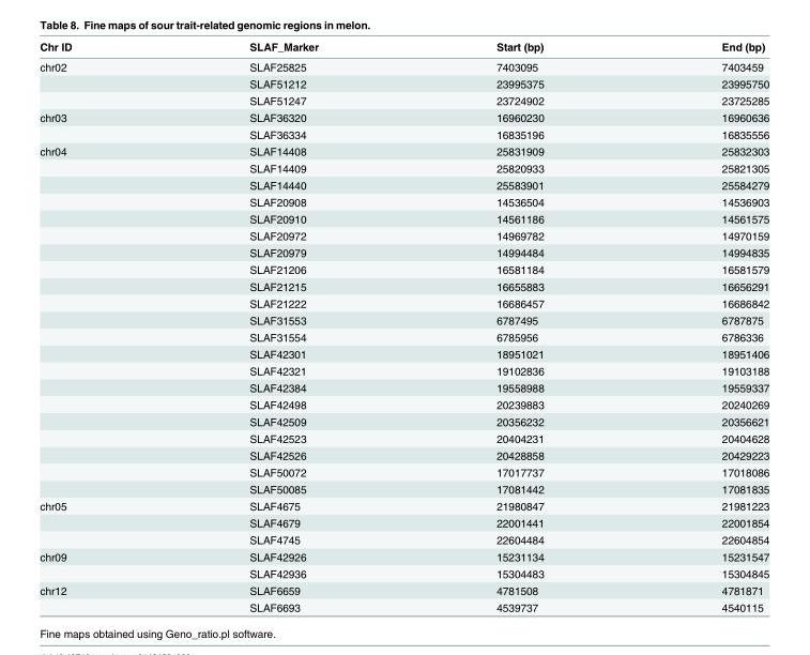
<table><thead><tr><td>Chr ID</td><td>SLAF_Marker</td><td>Start (bp)</td><td>End (bp)</td></tr></thead><tbody><tr><td rowspan="3">chr02</td><td>SLAF25825</td><td>7403095</td><td>7403459</td></tr><tr><td>SLAF51212</td><td>23995375</td><td>23995750</td></tr><tr><td>SLAF51247</td><td>23724902</td><td>23725285</td></tr><tr><td rowspan="2">chr03</td><td>SLAF36320</td><td>16960230</td><td>16960636</td></tr><tr><td>SLAF36334</td><td>16835196</td><td>16835556</td></tr><tr><td rowspan="21">chr04</td><td>SLAF14408</td><td>25831909</td><td>25832303</td></tr><tr><td>SLAF14409</td><td>25820933</td><td>25821305</td></tr><tr><td>SLAF14440</td><td>25583901</td><td>25584279</td></tr><tr><td>SLAF20908</td><td>14536504</td><td>14536903</td></tr><tr><td>SLAF20910</td><td>14561186</td><td>14561575</td></tr><tr><td>SLAF20972</td><td>14969782</td><td>14970159</td></tr><tr><td>SLAF20979</td><td>14994484</td><td>14994835</td></tr><tr><td>SLAF21206</td><td>16581184</td><td>16581579</td></tr><tr><td>SLAF21215</td><td>16655883</td><td>16656291</td></tr><tr><td>SLAF21222</td><td>16686457</td><td>16686842</td></tr><tr><td>SLAF31553</td><td>6787495</td><td>6787875</td></tr><tr><td>SLAF31554</td><td>6785956</td><td>6786336</td></tr><tr><td>SLAF42301</td><td>18951021</td><td>18951406</td></tr><tr><td>SLAF42321</td><td>19102836</td><td>19103188</td></tr><tr><td>SLAF42384</td><td>19558988</td><td>19559337</td></tr><tr><td>SLAF42498</td><td>20239883</td><td>20240269</td></tr><tr><td>SLAF42509</td><td>20356232</td><td>20356621</td></tr><tr><td>SLAF42523</td><td>20404231</td><td>20404628</td></tr><tr><td>SLAF42526</td><td>20428858</td><td>20429223</td></tr><tr><td>SLAF50072</td><td>17017737</td><td>17018086</td></tr><tr><td>SLAF50085</td><td>17081442</td><td>17081835</td></tr><tr><td rowspan="3">chr05</td><td>SLAF4675</td><td>21980847</td><td>21981223</td></tr><tr><td>SLAF4679</td><td>22001441</td><td>22001854</td></tr><tr><td>SLAF4745</td><td>22604484</td><td>22604854</td></tr><tr><td rowspan="2">chr09</td><td>SLAF42926</td><td>15231134</td><td>15231547</td></tr><tr><td>SLAF42936</td><td>15304483</td><td>15304845</td></tr><tr><td rowspan="2">chr12</td><td>SLAF6659</td><td>4781508</td><td>4781871</td></tr><tr><td>SLAF6693</td><td>4539737</td><td>4540115</td></tr></tbody></table>